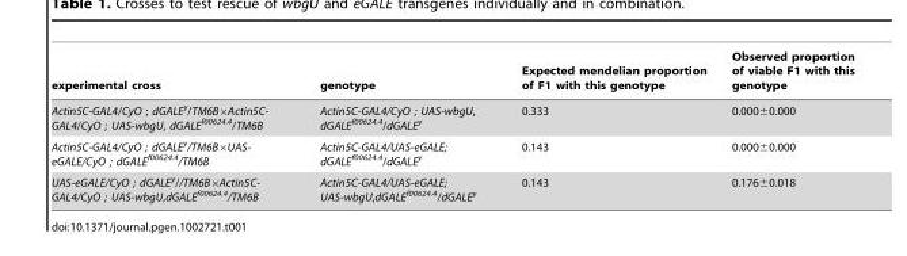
<table><thead><tr><td>experimental cross</td><td>genotype</td><td>Expected mendelian proportion of F1 with this genotype</td><td>Observed proportion of viable F1 with this genotype</td></tr></thead><tbody><tr><td>Actin5C-GAL4/CyO ; dGALE<sup>y</sup>/TM6B×Actin5C- GAL4/CyO ; UAS-wbgU, dGALE<sup>f00624.4</sup>/TM6B</td><td>Actin5C-GAL4/CyO ; UAS-wbgU, dGALE<sup>f00624.4</sup>/dGALE<sup>y</sup></td><td>0.333</td><td>0.000±0.000</td></tr><tr><td>Actin5C-GAL4/CyO ; dGALE<sup>y</sup>/TM6B×UAS- eGALE/CyO ; dGALE<sup>f00624.4</sup>/TM6B</td><td>Actin5C-GAL4/UAS-eGALE; dGALE<sup>f00624.4</sup>/dGALE<sup>y</sup></td><td>0.143</td><td>0.000±0.000</td></tr><tr><td>UAS-eGALE/CyO ; dGALE<sup>y</sup>//TM6B×Actin5C- GAL4/CyO ; UAS-wbgU,dGALE<sup>f00624.4</sup>/TM6B</td><td>Actin5C-GAL4/UAS-eGALE; UAS-wbgU,dGALE<sup>f00624.4</sup>/dGALE<sup>y</sup></td><td>0.143</td><td>0.176±0.018</td></tr></tbody></table>